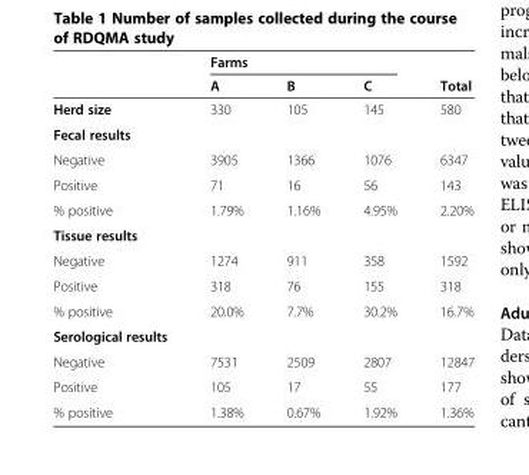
<table><thead><tr><td rowspan="2"></td><td colspan="3">Farms</td><td rowspan="2">Total</td></tr><tr><td>A</td><td>B</td><td>C</td></tr></thead><tbody><tr><td>Herd size</td><td>330</td><td>105</td><td>145</td><td>580</td></tr><tr><td colspan="5">Fecal results</td></tr><tr><td>Negative</td><td>3905</td><td>1366</td><td>1076</td><td>6347</td></tr><tr><td>Positive</td><td>71</td><td>16</td><td>56</td><td>143</td></tr><tr><td>% positive</td><td>1.79%</td><td>1.16%</td><td>4.95%</td><td>2.20%</td></tr><tr><td colspan="5">Tissue results</td></tr><tr><td>Negative</td><td>1274</td><td>911</td><td>358</td><td>1592</td></tr><tr><td>Positive</td><td>318</td><td>76</td><td>155</td><td>318</td></tr><tr><td>% positive</td><td>20.0%</td><td>7.7%</td><td>30.2%</td><td>16.7%</td></tr><tr><td colspan="5">Serological results</td></tr><tr><td>Negative</td><td>7531</td><td>2509</td><td>2807</td><td>12847</td></tr><tr><td>Positive</td><td>105</td><td>17</td><td>55</td><td>177</td></tr><tr><td>% positive</td><td>1.38%</td><td>0.67%</td><td>1.92%</td><td>1.36%</td></tr></tbody></table>